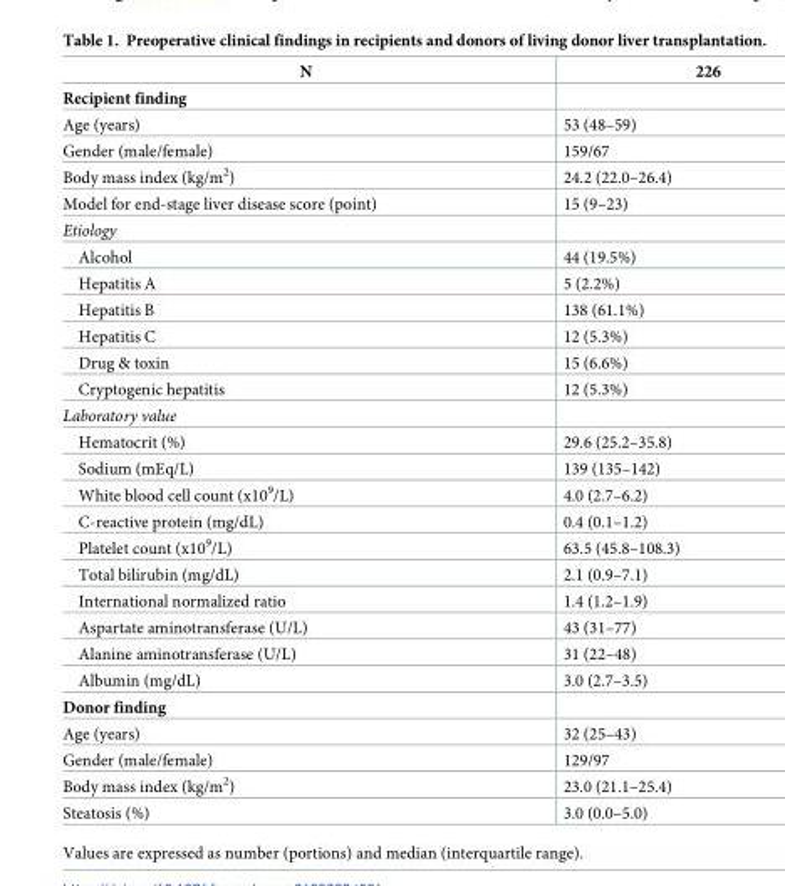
<table><thead><tr><td>N</td><td>226</td></tr></thead><tbody><tr><td colspan="2">Recipient finding</td></tr><tr><td>Age (years)</td><td>53 (48–59)</td></tr><tr><td>Gender (male/female)</td><td>159/67</td></tr><tr><td>Body mass index (kg/m<sup>2</sup>)</td><td>24.2 (22.0–26.4)</td></tr><tr><td>Model for end-stage liver disease score (point)</td><td>15 (9–23)</td></tr><tr><td colspan="2">Etiology</td></tr><tr><td>Alcohol</td><td>44 (19.5%)</td></tr><tr><td>Hepatitis A</td><td>5 (2.2%)</td></tr><tr><td>Hepatitis B</td><td>138 (61.1%)</td></tr><tr><td>Hepatitis C</td><td>12 (5.3%)</td></tr><tr><td>Drug &amp; toxin</td><td>15 (6.6%)</td></tr><tr><td>Cryptogenic hepatitis</td><td>12 (5.3%)</td></tr><tr><td colspan="2">Laboratory value</td></tr><tr><td>Hematocrit (%)</td><td>29.6 (25.2–35.8)</td></tr><tr><td>Sodium (mEq/L)</td><td>139 (135–142)</td></tr><tr><td>White blood cell count (x10<sup>9</sup>/L)</td><td>4.0 (2.7–6.2)</td></tr><tr><td>C-reactive protein (mg/dL)</td><td>0.4 (0.1–1.2)</td></tr><tr><td>Platelet count (x10<sup>9</sup>/L)</td><td>63.5 (45.8–108.3)</td></tr><tr><td>Total bilirubin (mg/dL)</td><td>2.1 (0.9–7.1)</td></tr><tr><td>International normalized ratio</td><td>1.4 (1.2–1.9)</td></tr><tr><td>Aspartate aminotransferase (U/L)</td><td>43 (31–77)</td></tr><tr><td>Alanine aminotransferase (U/L)</td><td>31 (22–48)</td></tr><tr><td>Albumin (mg/dL)</td><td>3.0 (2.7–3.5)</td></tr><tr><td colspan="2">Donor finding</td></tr><tr><td>Age (years)</td><td>32 (25–43)</td></tr><tr><td>Gender (male/female)</td><td>129/97</td></tr><tr><td>Body mass index (kg/m<sup>2</sup>)</td><td>23.0 (21.1–25.4)</td></tr><tr><td>Steatosis (%)</td><td>3.0 (0.0–5.0)</td></tr></tbody></table>